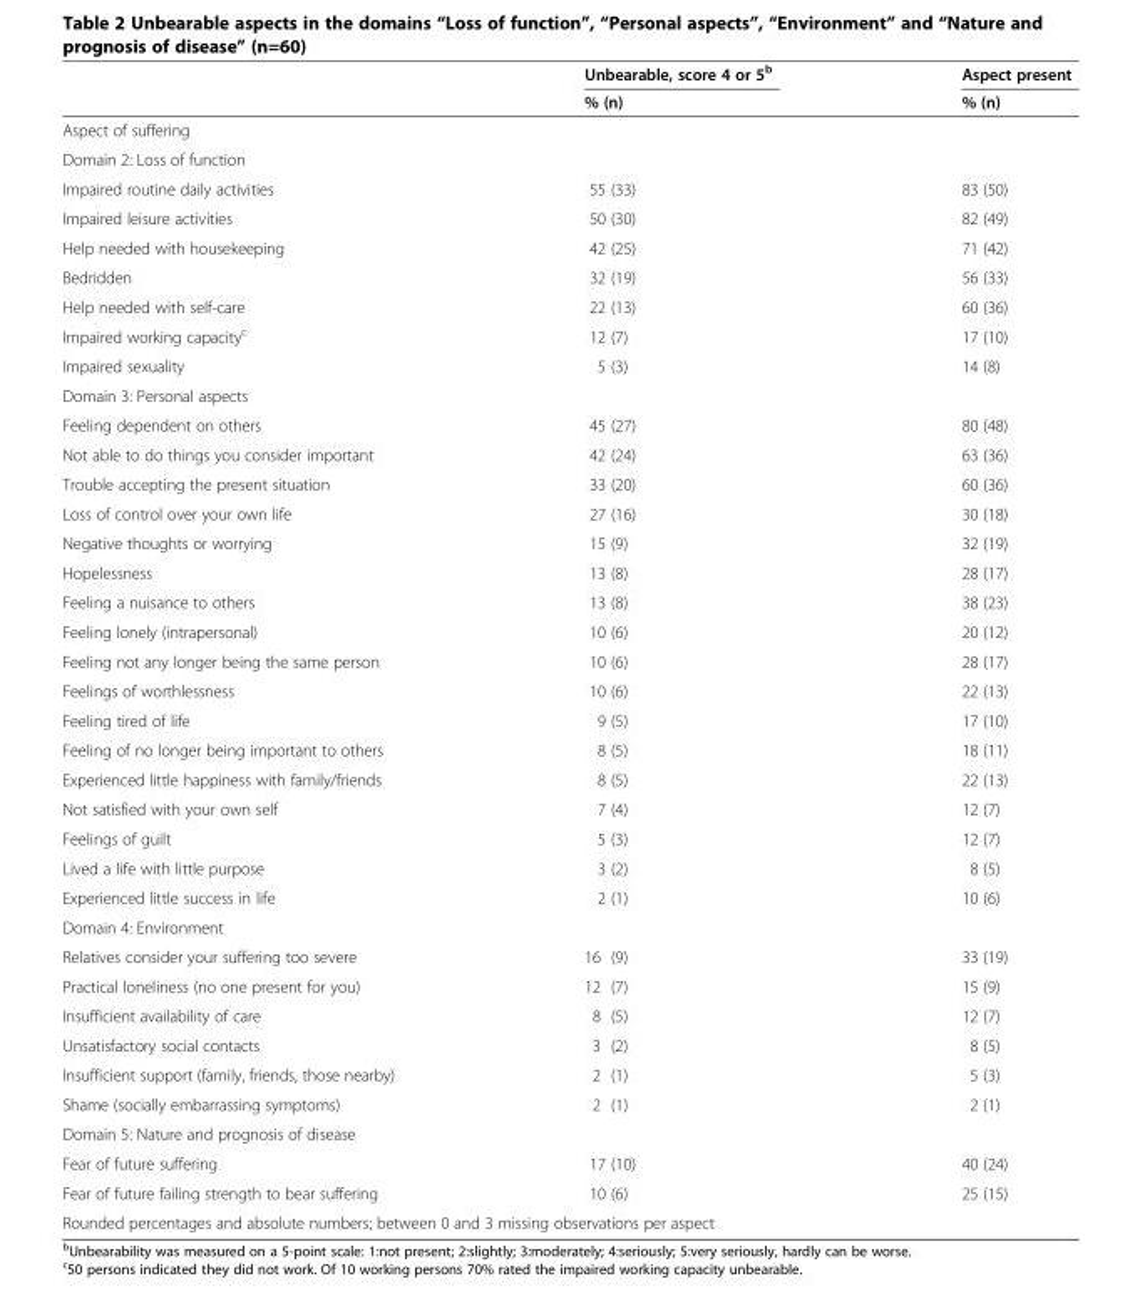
<table><thead><tr><td rowspan="2"></td><td rowspan="2">Unbearable, score 4 or 5<sup>b</sup> % (n)</td><td rowspan="2">Aspect present % (n)</td></tr><tr></tr></thead><tbody><tr><td colspan="3">Aspect of suffering</td></tr><tr><td colspan="3">Domain 2: Loss of function</td></tr><tr><td>Impaired routine daily activities</td><td>55 (33)</td><td>83 (50)</td></tr><tr><td>Impaired leisure activities</td><td>50 (30)</td><td>82 (49)</td></tr><tr><td>Help needed with housekeeping</td><td>42 (25)</td><td>71 (42)</td></tr><tr><td>Bedridden</td><td>32 (19)</td><td>56 (33)</td></tr><tr><td>Help needed with self-care</td><td>22 (13)</td><td>60 (36)</td></tr><tr><td>Impaired working capacity<sup>c</sup></td><td>12 (7)</td><td>17 (10)</td></tr><tr><td>Impaired sexuality</td><td>5 (3)</td><td>14 (8)</td></tr><tr><td colspan="3">Domain 3: Personal aspects</td></tr><tr><td>Feeling dependent on others</td><td>45 (27)</td><td>80 (48)</td></tr><tr><td>Not able to do things you consider important</td><td>42 (24)</td><td>63 (36)</td></tr><tr><td>Trouble accepting the present situation</td><td>33 (20)</td><td>60 (36)</td></tr><tr><td>Loss of control over your own life</td><td>27 (16)</td><td>30 (18)</td></tr><tr><td>Negative thoughts or worrying</td><td>15 (9)</td><td>32 (19)</td></tr><tr><td>Hopelessness</td><td>13 (8)</td><td>28 (17)</td></tr><tr><td>Feeling a nuisance to others</td><td>13 (8)</td><td>38 (23)</td></tr><tr><td>Feeling lonely (intrapersonal)</td><td>10 (6)</td><td>20 (12)</td></tr><tr><td>Feeling not any longer being the same person</td><td>10 (6)</td><td>28 (17)</td></tr><tr><td>Feelings of worthlessness</td><td>10 (6)</td><td>22 (13)</td></tr><tr><td>Feeling tired of life</td><td>9 (5)</td><td>17 (10)</td></tr><tr><td>Feeling of no longer being important to others</td><td>8 (5)</td><td>18 (11)</td></tr><tr><td>Experienced little happiness with family/friends</td><td>8 (5)</td><td>22 (13)</td></tr><tr><td>Not satisfied with your own self</td><td>7 (4)</td><td>12 (7)</td></tr><tr><td>Feelings of guilt</td><td>5 (3)</td><td>12 (7)</td></tr><tr><td>Lived a life with little purpose</td><td>3 (2)</td><td>8 (5)</td></tr><tr><td>Experienced little success in life</td><td>2 (1)</td><td>10 (6)</td></tr><tr><td colspan="3">Domain 4: Environment</td></tr><tr><td>Relatives consider your suffering too severe</td><td>16 (9)</td><td>33 (19)</td></tr><tr><td>Practical loneliness (no one present for you)</td><td>12 (7)</td><td>15 (9)</td></tr><tr><td>Insufficient availability of care</td><td>8 (5)</td><td>12 (7)</td></tr><tr><td>Unsatisfactory social contacts</td><td>3 (2)</td><td>8 (5)</td></tr><tr><td>Insufficient support (family, friends, those nearby)</td><td>2 (1)</td><td>5 (3)</td></tr><tr><td>Shame (socially embarrassing symptoms)</td><td>2 (1)</td><td>2 (1)</td></tr><tr><td colspan="3">Domain 5: Nature and prognosis of disease</td></tr><tr><td>Fear of future suffering</td><td>17 (10)</td><td>40 (24)</td></tr><tr><td>Fear of future failing strength to bear suffering</td><td>10 (6)</td><td>25 (15)</td></tr><tr><td colspan="3">Rounded percentages and absolute numbers; between 0 and 3 missing observations per aspect</td></tr></tbody></table>